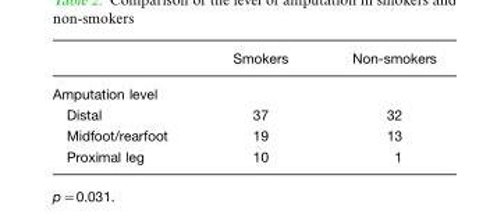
<table><thead><tr><td></td><td>Smokers</td><td>Non-smokers</td></tr></thead><tbody><tr><td colspan="3">Amputation level</td></tr><tr><td>Distal</td><td>37</td><td>32</td></tr><tr><td>Midfoot/rearfoot</td><td>19</td><td>13</td></tr><tr><td>Proximal leg</td><td>10</td><td>1</td></tr></tbody></table>